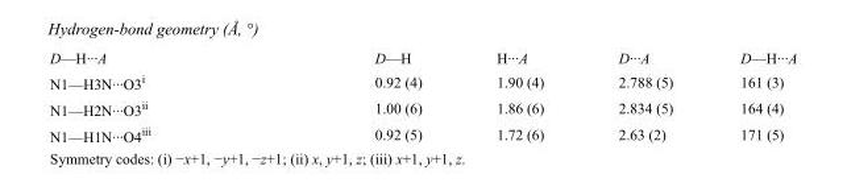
<table><tbody><tr><td>D—H···A</td><td>D—H</td><td>H···A</td><td>D···A</td><td>D—H···A</td></tr><tr><td>N1—H3N···O3<sup>i</sup></td><td>0.92 (4)</td><td>1.90 (4)</td><td>2.788 (5)</td><td>161 (3)</td></tr><tr><td>N1—H2N···O3<sup>ii</sup></td><td>1.00 (6)</td><td>1.86 (6)</td><td>2.834 (5)</td><td>164 (4)</td></tr><tr><td>N1—H1N···O4<sup>iii</sup></td><td>0.92 (5)</td><td>1.72 (6)</td><td>2.63 (2)</td><td>171 (5)</td></tr></tbody></table>